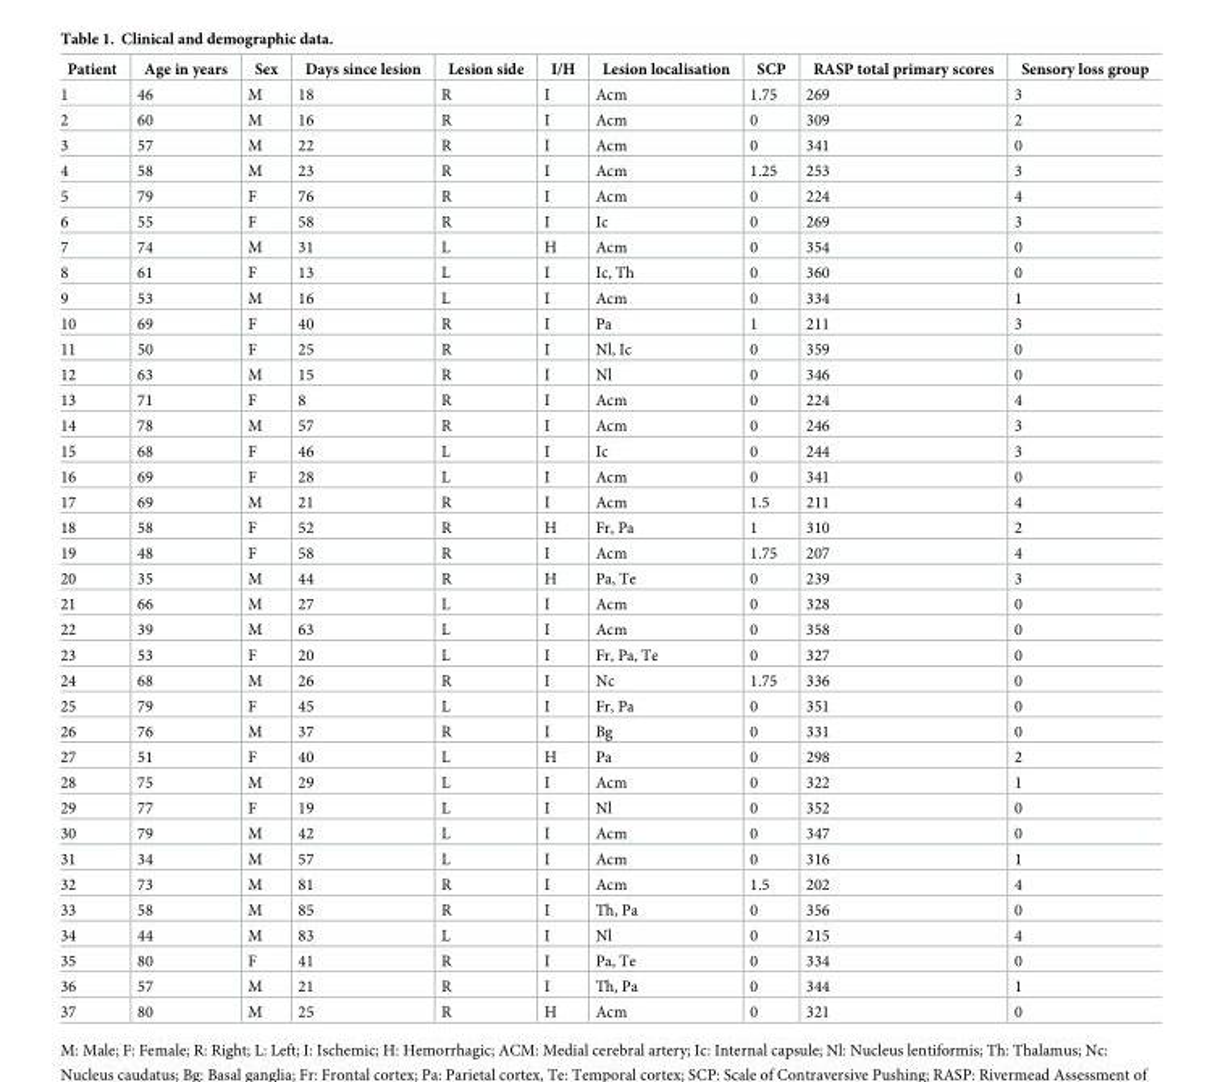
<table><thead><tr><td>Patient</td><td>Age in years</td><td>Sex</td><td>Days since lesion</td><td>Lesion side</td><td>I/H</td><td>Lesion localisation</td><td>SCP</td><td>RASP total primary scores</td><td>Sensory loss group</td></tr></thead><tbody><tr><td>1</td><td>46</td><td>M</td><td>18</td><td>R</td><td>I</td><td>Acm</td><td>1.75</td><td>269</td><td>3</td></tr><tr><td>2</td><td>60</td><td>M</td><td>16</td><td>R</td><td>I</td><td>Acm</td><td>0</td><td>309</td><td>2</td></tr><tr><td>3</td><td>57</td><td>M</td><td>22</td><td>R</td><td>I</td><td>Acm</td><td>0</td><td>341</td><td>0</td></tr><tr><td>4</td><td>58</td><td>M</td><td>23</td><td>R</td><td>I</td><td>Acm</td><td>1.25</td><td>253</td><td>3</td></tr><tr><td>5</td><td>79</td><td>F</td><td>76</td><td>R</td><td>I</td><td>Acm</td><td>0</td><td>224</td><td>4</td></tr><tr><td>6</td><td>55</td><td>F</td><td>58</td><td>R</td><td>I</td><td>Ic</td><td>0</td><td>269</td><td>3</td></tr><tr><td>7</td><td>74</td><td>M</td><td>31</td><td>L</td><td>H</td><td>Acm</td><td>0</td><td>354</td><td>0</td></tr><tr><td>8</td><td>61</td><td>F</td><td>13</td><td>L</td><td>I</td><td>Ic, Th</td><td>0</td><td>360</td><td>0</td></tr><tr><td>9</td><td>53</td><td>M</td><td>16</td><td>L</td><td>I</td><td>Acm</td><td>0</td><td>334</td><td>1</td></tr><tr><td>10</td><td>69</td><td>F</td><td>40</td><td>R</td><td>I</td><td>Pa</td><td>1</td><td>211</td><td>3</td></tr><tr><td>11</td><td>50</td><td>F</td><td>25</td><td>R</td><td>I</td><td>Nl, Ic</td><td>0</td><td>359</td><td>0</td></tr><tr><td>12</td><td>63</td><td>M</td><td>15</td><td>R</td><td>I</td><td>Nl</td><td>0</td><td>346</td><td>0</td></tr><tr><td>13</td><td>71</td><td>F</td><td>8</td><td>R</td><td>I</td><td>Acm</td><td>0</td><td>224</td><td>4</td></tr><tr><td>14</td><td>78</td><td>M</td><td>57</td><td>R</td><td>I</td><td>Acm</td><td>0</td><td>246</td><td>3</td></tr><tr><td>15</td><td>68</td><td>F</td><td>46</td><td>L</td><td>I</td><td>Ic</td><td>0</td><td>244</td><td>3</td></tr><tr><td>16</td><td>69</td><td>F</td><td>28</td><td>L</td><td>I</td><td>Acm</td><td>0</td><td>341</td><td>0</td></tr><tr><td>17</td><td>69</td><td>M</td><td>21</td><td>R</td><td>I</td><td>Acm</td><td>1.5</td><td>211</td><td>4</td></tr><tr><td>18</td><td>58</td><td>F</td><td>52</td><td>R</td><td>H</td><td>Fr, Pa</td><td>1</td><td>310</td><td>2</td></tr><tr><td>19</td><td>48</td><td>F</td><td>58</td><td>R</td><td>I</td><td>Acm</td><td>1.75</td><td>207</td><td>4</td></tr><tr><td>20</td><td>35</td><td>M</td><td>44</td><td>R</td><td>H</td><td>Pa, Te</td><td>0</td><td>239</td><td>3</td></tr><tr><td>21</td><td>66</td><td>M</td><td>27</td><td>L</td><td>I</td><td>Acm</td><td>0</td><td>328</td><td>0</td></tr><tr><td>22</td><td>39</td><td>M</td><td>63</td><td>L</td><td>I</td><td>Acm</td><td>0</td><td>358</td><td>0</td></tr><tr><td>23</td><td>53</td><td>F</td><td>20</td><td>L</td><td>I</td><td>Fr, Pa, Te</td><td>0</td><td>327</td><td>0</td></tr><tr><td>24</td><td>68</td><td>M</td><td>26</td><td>R</td><td>I</td><td>Nc</td><td>1.75</td><td>336</td><td>0</td></tr><tr><td>25</td><td>79</td><td>F</td><td>45</td><td>L</td><td>I</td><td>Fr, Pa</td><td>0</td><td>351</td><td>0</td></tr><tr><td>26</td><td>76</td><td>M</td><td>37</td><td>R</td><td>I</td><td>Bg</td><td>0</td><td>331</td><td>0</td></tr><tr><td>27</td><td>51</td><td>F</td><td>40</td><td>L</td><td>H</td><td>Pa</td><td>0</td><td>298</td><td>2</td></tr><tr><td>28</td><td>75</td><td>M</td><td>29</td><td>L</td><td>I</td><td>Acm</td><td>0</td><td>322</td><td>1</td></tr><tr><td>29</td><td>77</td><td>F</td><td>19</td><td>L</td><td>I</td><td>Nl</td><td>0</td><td>352</td><td>0</td></tr><tr><td>30</td><td>79</td><td>M</td><td>42</td><td>L</td><td>I</td><td>Acm</td><td>0</td><td>347</td><td>0</td></tr><tr><td>31</td><td>34</td><td>M</td><td>57</td><td>L</td><td>I</td><td>Acm</td><td>0</td><td>316</td><td>1</td></tr><tr><td>32</td><td>73</td><td>M</td><td>81</td><td>R</td><td>I</td><td>Acm</td><td>1.5</td><td>202</td><td>4</td></tr><tr><td>33</td><td>58</td><td>M</td><td>85</td><td>R</td><td>I</td><td>Th, Pa</td><td>0</td><td>356</td><td>0</td></tr><tr><td>34</td><td>44</td><td>M</td><td>83</td><td>L</td><td>I</td><td>Nl</td><td>0</td><td>215</td><td>4</td></tr><tr><td>35</td><td>80</td><td>F</td><td>41</td><td>R</td><td>I</td><td>Pa, Te</td><td>0</td><td>334</td><td>0</td></tr><tr><td>36</td><td>57</td><td>M</td><td>21</td><td>R</td><td>I</td><td>Th, Pa</td><td>0</td><td>344</td><td>1</td></tr><tr><td>37</td><td>80</td><td>M</td><td>25</td><td>R</td><td>H</td><td>Acm</td><td>0</td><td>321</td><td>0</td></tr></tbody></table>